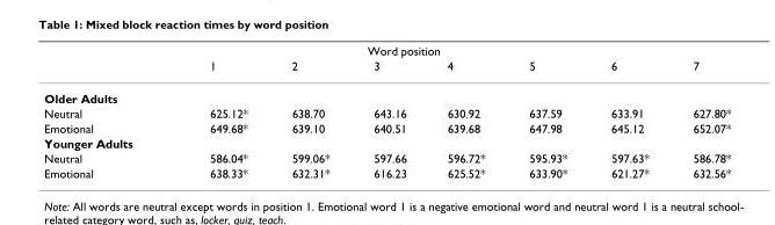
<table><thead><tr><td colspan="8">Word position</td></tr><tr><td></td><td>1</td><td>2</td><td>3</td><td>4</td><td>5</td><td>6</td><td>7</td></tr></thead><tbody><tr><td colspan="8">Older Adults</td></tr><tr><td>Neutral</td><td>625.12*</td><td>638.70</td><td>643.16</td><td>630.92</td><td>637.59</td><td>633.91</td><td>627.80*</td></tr><tr><td>Emotional</td><td>649.68*</td><td>639.10</td><td>640.51</td><td>639.68</td><td>647.98</td><td>645.12</td><td>652.07*</td></tr><tr><td colspan="8">Younger Adults</td></tr><tr><td>Neutral</td><td>586.04*</td><td>599.06*</td><td>597.66</td><td>596.72*</td><td>595.93*</td><td>597.63*</td><td>586.78*</td></tr><tr><td>Emotional</td><td>638.33*</td><td>632.31*</td><td>616.23</td><td>625.52*</td><td>633.90*</td><td>621.27*</td><td>632.56*</td></tr></tbody></table>